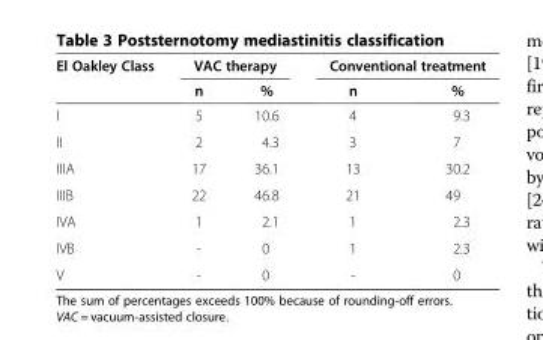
<table><thead><tr><td rowspan="2">El Oakley Class</td><td colspan="2">VAC therapy</td><td colspan="2">Conventional treatment</td></tr><tr><td>n</td><td>%</td><td>n</td><td>%</td></tr></thead><tbody><tr><td>I</td><td>5</td><td>10.6</td><td>4</td><td>9.3</td></tr><tr><td>II</td><td>2</td><td>4.3</td><td>3</td><td>7</td></tr><tr><td>IIIA</td><td>17</td><td>36.1</td><td>13</td><td>30.2</td></tr><tr><td>IIIB</td><td>22</td><td>46.8</td><td>21</td><td>49</td></tr><tr><td>IVA</td><td>1</td><td>2.1</td><td>1</td><td>2.3</td></tr><tr><td>IVB</td><td>-</td><td>0</td><td>1</td><td>2.3</td></tr><tr><td>V</td><td>-</td><td>0</td><td>-</td><td>0</td></tr></tbody></table>